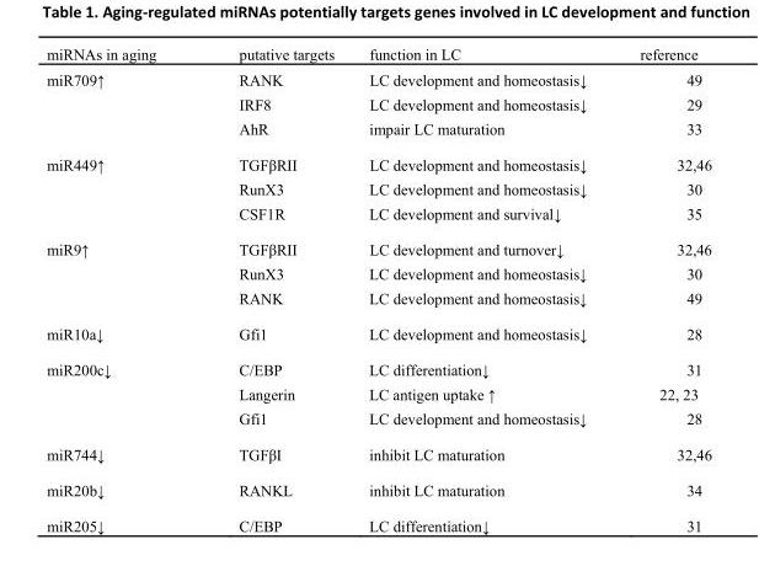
<table><thead><tr><td>miRNAs in aging</td><td>putative targets</td><td>function in LC</td><td>reference</td></tr></thead><tbody><tr><td rowspan="3">miR709↑</td><td>RANK</td><td>LC development and homeostasis↓</td><td>49</td></tr><tr><td>IRF8</td><td>LC development and homeostasis↓</td><td>29</td></tr><tr><td>AhR</td><td>impair LC maturation</td><td>33</td></tr><tr><td rowspan="3">miR449↑</td><td>TGFβRII</td><td>LC development and homeostasis↓</td><td>32,46</td></tr><tr><td>RunX3</td><td>LC development and homeostasis↓</td><td>30</td></tr><tr><td>CSF1R</td><td>LC development and survival↓</td><td>35</td></tr><tr><td rowspan="3">miR9↑</td><td>TGFβRII</td><td>LC development and turnover↓</td><td>32,46</td></tr><tr><td>RunX3</td><td>LC development and homeostasis↓</td><td>30</td></tr><tr><td>RANK</td><td>LC development and homeostasis↓</td><td>49</td></tr><tr><td>miR10a↓</td><td>Gfi1</td><td>LC development and homeostasis↓</td><td>28</td></tr><tr><td rowspan="3">miR200c↓</td><td>C/EBP</td><td>LC differentiation↓</td><td>31</td></tr><tr><td>Langerin</td><td>LC antigen uptake ↑</td><td>22, 23</td></tr><tr><td>Gfi1</td><td>LC development and homeostasis↓</td><td>28</td></tr><tr><td>miR744↓</td><td>TGFβI</td><td>inhibit LC maturation</td><td>32,46</td></tr><tr><td>miR20b↓</td><td>RANKL</td><td>inhibit LC maturation</td><td>34</td></tr><tr><td>miR205↓</td><td>C/EBP</td><td>LC differentiation↓</td><td>31</td></tr></tbody></table>